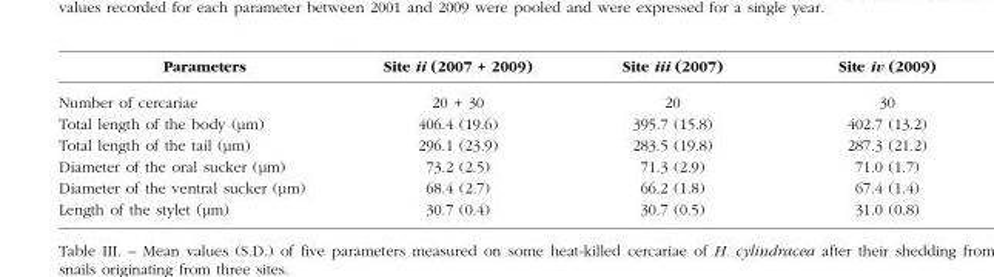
<table><thead><tr><td>Parameters</td><td>Site ii (2007 + 2009)</td><td>Site iii (2007)</td><td>Site iv (2009)</td></tr></thead><tbody><tr><td>Number of cercariae</td><td>20 + 30</td><td>20</td><td>30</td></tr><tr><td>Total length of the body (µm)</td><td>406.4 (19.6)</td><td>395.7 (15.8)</td><td>402.7 (13.2)</td></tr><tr><td>Total length of the tail (µm)</td><td>296.1 (23.9)</td><td>283.5 (19.8)</td><td>287.3 (21.2)</td></tr><tr><td>Diameter of the oral sucker (µm)</td><td>73.2 (2.5)</td><td>71.3 (2.9)</td><td>71.0 (1.7)</td></tr><tr><td>Diameter of the ventral sucker (µm)</td><td>68.4 (2.7)</td><td>66.2 (1.8)</td><td>67.4 (1.4)</td></tr><tr><td>Length of the stylet (µm)</td><td>30.7 (0.4)</td><td>30.7 (0.5)</td><td>31.0 (0.8)</td></tr></tbody></table>